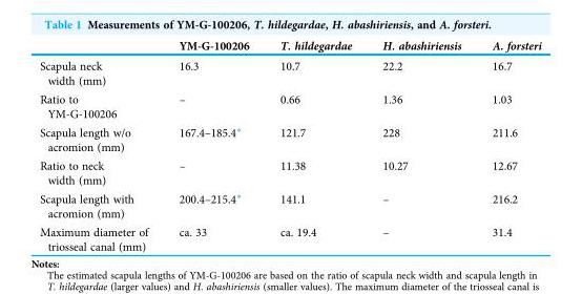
<table><thead><tr><td></td><td>YM-G-100206</td><td>T. hildegardae</td><td>H. abashiriensis</td><td>A. forsteri</td></tr></thead><tbody><tr><td>Scapula neck width (mm)</td><td>16.3</td><td>10.7</td><td>22.2</td><td>16.7</td></tr><tr><td>Ratio to YM-G-100206</td><td>–</td><td>0.66</td><td>1.36</td><td>1.03</td></tr><tr><td>Scapula length w/o acromion (mm)</td><td>167.4–185.4*</td><td>121.7</td><td>228</td><td>211.6</td></tr><tr><td>Ratio to neck width (mm)</td><td>–</td><td>11.38</td><td>10.27</td><td>12.67</td></tr><tr><td>Scapula length with acromion (mm)</td><td>200.4–215.4*</td><td>141.1</td><td>–</td><td>216.2</td></tr><tr><td>Maximum diameter of triosseal canal (mm)</td><td>ca. 33</td><td>ca. 19.4</td><td>–</td><td>31.4</td></tr></tbody></table>